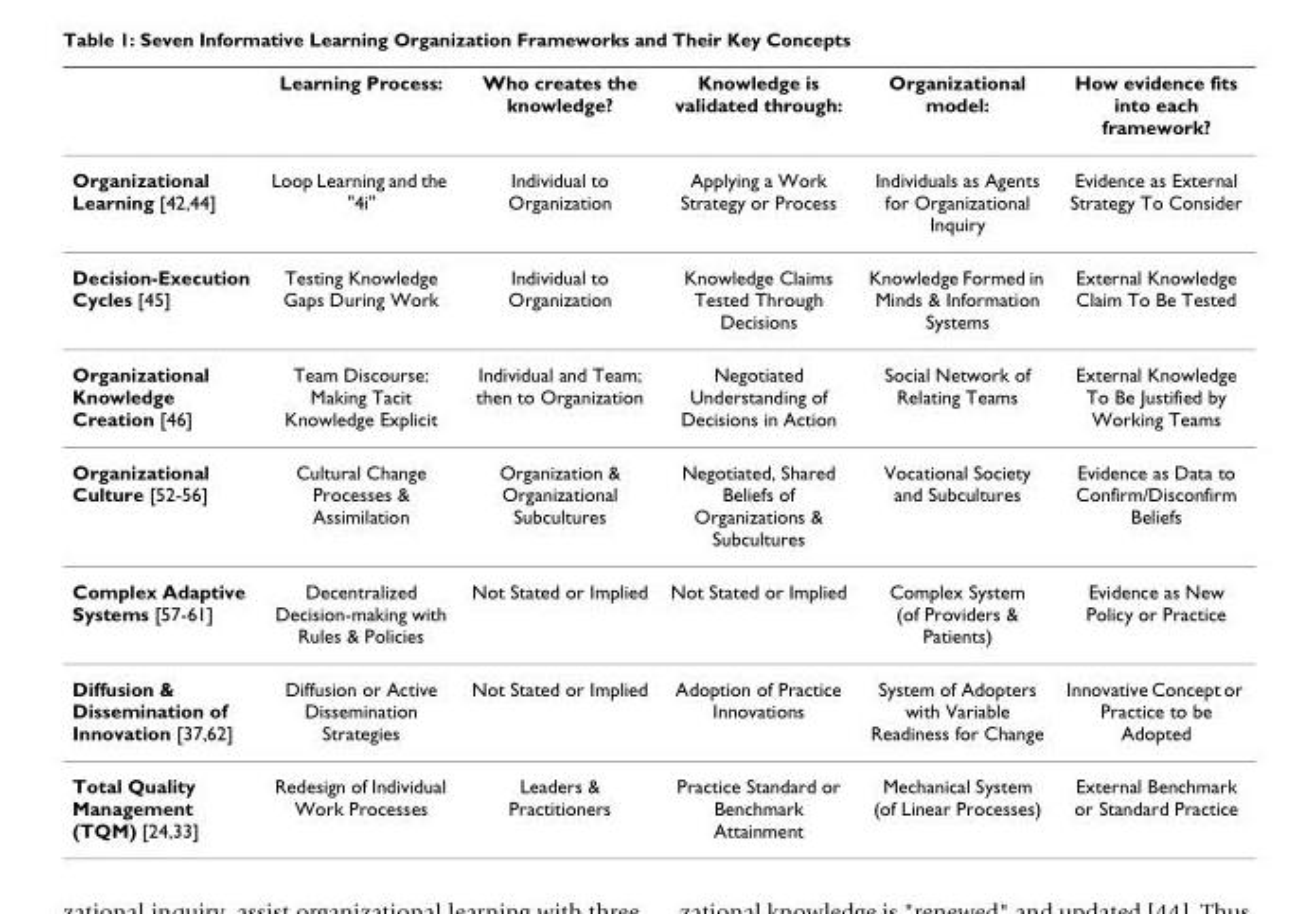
<table><thead><tr><td></td><td>Learning Process:</td><td>Who creates the knowledge?</td><td>Knowledge is validated through:</td><td>Organizational model:</td><td>How evidence fits into each framework?</td></tr></thead><tbody><tr><td>Organizational Learning [42,44]</td><td>Loop Learning and the &quot;4i&quot;</td><td>Individual to Organization</td><td>Applying a Work Strategy or Process</td><td>Individuals as Agents for Organizational Inquiry</td><td>Evidence as External Strategy To Consider</td></tr><tr><td>Decision-Execution Cycles [45]</td><td>Testing Knowledge Gaps During Work</td><td>Individual to Organization</td><td>Knowledge Claims Tested Through Decisions</td><td>Knowledge Formed in Minds &amp; Information Systems</td><td>External Knowledge Claim To Be Tested</td></tr><tr><td>Organizational Knowledge Creation [46]</td><td>Team Discourse: Making Tacit Knowledge Explicit</td><td>Individual and Team; then to Organization</td><td>Negotiated Understanding of Decisions in Action</td><td>Social Network of Relating Teams</td><td>External Knowledge To Be Justified by Working Teams</td></tr><tr><td>Organizational Culture [52-56]</td><td>Cultural Change Processes &amp; Assimilation</td><td>Organization &amp; Organizational Subcultures</td><td>Negotiated, Shared Beliefs of Organizations &amp; Subcultures</td><td>Vocational Society and Subcultures</td><td>Evidence as Data to Confirm/Disconfirm Beliefs</td></tr><tr><td>Complex Adaptive Systems [57-61]</td><td>Decentralized Decision-making with Rules &amp; Policies</td><td>Not Stated or Implied</td><td>Not Stated or Implied</td><td>Complex System (of Providers &amp; Patients)</td><td>Evidence as New Policy or Practice</td></tr><tr><td>Diffusion &amp; Dissemination of Innovation [37,62]</td><td>Diffusion or Active Dissemination Strategies</td><td>Not Stated or Implied</td><td>Adoption of Practice Innovations</td><td>System of Adopters with Variable Readiness for Change</td><td>Innovative Concept or Practice to be Adopted</td></tr><tr><td>Total Quality Management (TQM) [24,33]</td><td>Redesign of Individual Work Processes</td><td>Leaders &amp; Practitioners</td><td>Practice Standard or Benchmark Attainment</td><td>Mechanical System (of Linear Processes)</td><td>External Benchmark or Standard Practice</td></tr></tbody></table>